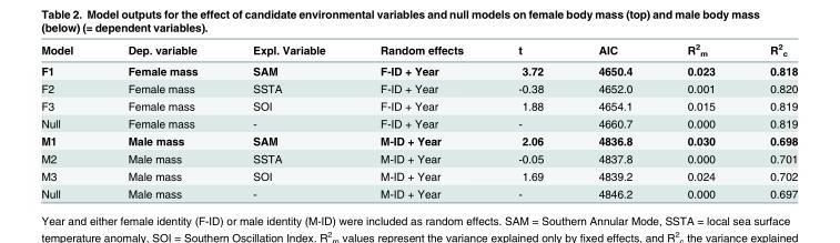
<table><thead><tr><td>Model</td><td>Dep. variable</td><td>Expl. Variable</td><td>Random effects</td><td>t</td><td>AIC</td><td>R<sup>2</sup> <sub>m</sub></td><td>R<sup>2</sup> <sub>c</sub></td></tr></thead><tbody><tr><td>F1</td><td>Female mass</td><td>SAM</td><td>F-ID + Year</td><td>3.72</td><td>4650.4</td><td>0.023</td><td>0.818</td></tr><tr><td>F2</td><td>Female mass</td><td>SSTA</td><td>F-ID + Year</td><td>-0.38</td><td>4652.0</td><td>0.001</td><td>0.820</td></tr><tr><td>F3</td><td>Female mass</td><td>SOI</td><td>F-ID + Year</td><td>1.88</td><td>4654.1</td><td>0.015</td><td>0.819</td></tr><tr><td>Null</td><td>Female mass</td><td>-</td><td>F-ID + Year</td><td>-</td><td>4660.7</td><td>0.000</td><td>0.819</td></tr><tr><td>M1</td><td>Male mass</td><td>SAM</td><td>M-ID + Year</td><td>2.06</td><td>4836.8</td><td>0.030</td><td>0.698</td></tr><tr><td>M2</td><td>Male mass</td><td>SSTA</td><td>M-ID + Year</td><td>-0.05</td><td>4837.8</td><td>0.000</td><td>0.701</td></tr><tr><td>M3</td><td>Male mass</td><td>SOI</td><td>M-ID + Year</td><td>1.69</td><td>4839.2</td><td>0.024</td><td>0.702</td></tr><tr><td>Null</td><td>Male mass</td><td>-</td><td>M-ID + Year</td><td>-</td><td>4846.2</td><td>0.000</td><td>0.697</td></tr></tbody></table>